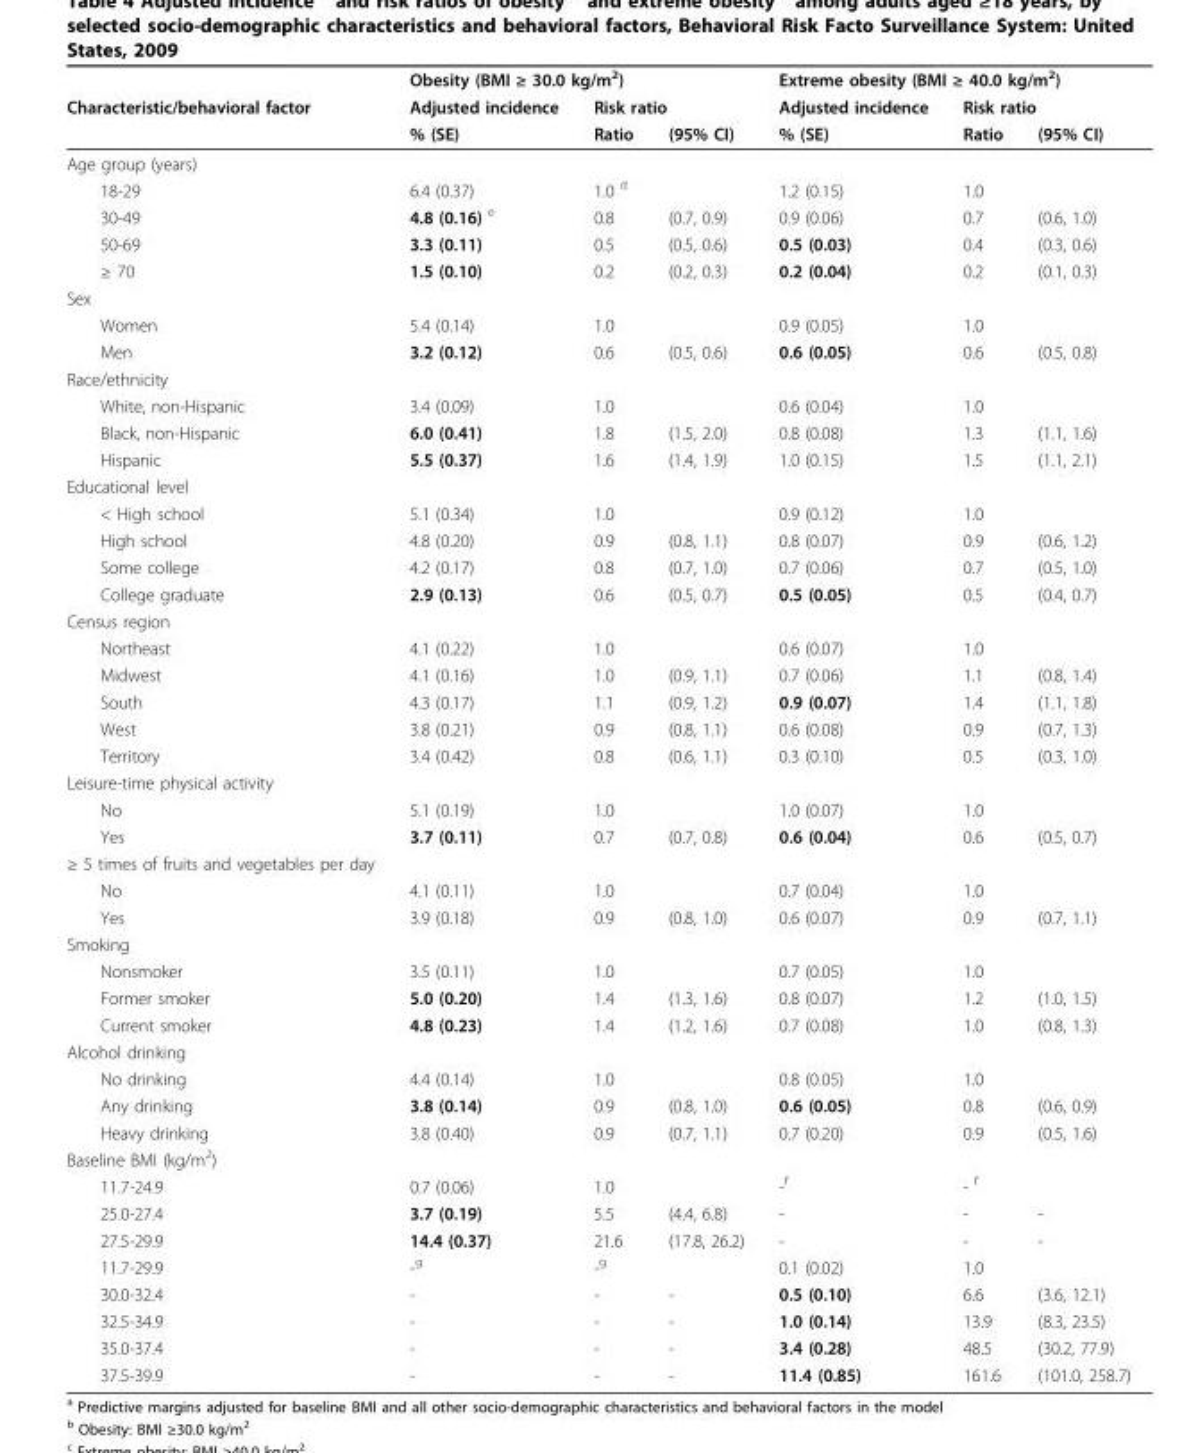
<table><thead><tr><td rowspan="3">Characteristic/behavioral factor</td><td colspan="3">Obesity (BMI ≥ 30.0 kg/m<sup>2</sup>)</td><td colspan="3">Extreme obesity (BMI ≥ 40.0 kg/m<sup>2</sup>)</td></tr><tr><td rowspan="2">Adjusted incidence % (SE)</td><td colspan="2">Risk ratio</td><td rowspan="2">Adjusted incidence % (SE)</td><td colspan="2">Risk ratio</td></tr><tr><td>Ratio</td><td>(95% CI)</td><td>Ratio</td><td>(95% CI)</td></tr></thead><tbody><tr><td colspan="7">Age group (years)</td></tr><tr><td>18-29</td><td>6.4 (0.37)</td><td>1.0 <sup>d</sup></td><td></td><td>1.2 (0.15)</td><td>1.0</td><td></td></tr><tr><td>30-49</td><td>4.8 (0.16) <sup>e</sup></td><td>0.8</td><td>(0.7, 0.9)</td><td>0.9 (0.06)</td><td>0.7</td><td>(0.6, 1.0)</td></tr><tr><td>50-69</td><td>3.3 (0.11)</td><td>0.5</td><td>(0.5, 0.6)</td><td>0.5 (0.03)</td><td>0.4</td><td>(0.3, 0.6)</td></tr><tr><td>≥ 70</td><td>1.5 (0.10)</td><td>0.2</td><td>(0.2, 0.3)</td><td>0.2 (0.04)</td><td>0.2</td><td>(0.1, 0.3)</td></tr><tr><td colspan="7">Sex</td></tr><tr><td>Women</td><td>5.4 (0.14)</td><td>1.0</td><td></td><td>0.9 (0.05)</td><td>1.0</td><td></td></tr><tr><td>Men</td><td>3.2 (0.12)</td><td>0.6</td><td>(0.5, 0.6)</td><td>0.6 (0.05)</td><td>0.6</td><td>(0.5, 0.8)</td></tr><tr><td colspan="7">Race/ethnicity</td></tr><tr><td>White, non-Hispanic</td><td>3.4 (0.09)</td><td>1.0</td><td></td><td>0.6 (0.04)</td><td>1.0</td><td></td></tr><tr><td>Black, non-Hispanic</td><td>6.0 (0.41)</td><td>1.8</td><td>(1.5, 2.0)</td><td>0.8 (0.08)</td><td>1.3</td><td>(1.1, 1.6)</td></tr><tr><td>Hispanic</td><td>5.5 (0.37)</td><td>1.6</td><td>(1.4, 1.9)</td><td>1.0 (0.15)</td><td>1.5</td><td>(1.1, 2.1)</td></tr><tr><td colspan="7">Educational level</td></tr><tr><td>&lt; High school</td><td>5.1 (0.34)</td><td>1.0</td><td></td><td>0.9 (0.12)</td><td>1.0</td><td></td></tr><tr><td>High school</td><td>4.8 (0.20)</td><td>0.9</td><td>(0.8, 1.1)</td><td>0.8 (0.07)</td><td>0.9</td><td>(0.6, 1.2)</td></tr><tr><td>Some college</td><td>4.2 (0.17)</td><td>0.8</td><td>(0.7, 1.0)</td><td>0.7 (0.06)</td><td>0.7</td><td>(0.5, 1.0)</td></tr><tr><td>College graduate</td><td>2.9 (0.13)</td><td>0.6</td><td>(0.5, 0.7)</td><td>0.5 (0.05)</td><td>0.5</td><td>(0.4, 0.7)</td></tr><tr><td colspan="7">Census region</td></tr><tr><td>Northeast</td><td>4.1 (0.22)</td><td>1.0</td><td></td><td>0.6 (0.07)</td><td>1.0</td><td></td></tr><tr><td>Midwest</td><td>4.1 (0.16)</td><td>1.0</td><td>(0.9, 1.1)</td><td>0.7 (0.06)</td><td>1.1</td><td>(0.8, 1.4)</td></tr><tr><td>South</td><td>4.3 (0.17)</td><td>1.1</td><td>(0.9, 1.2)</td><td>0.9 (0.07)</td><td>1.4</td><td>(1.1, 1.8)</td></tr><tr><td>West</td><td>3.8 (0.21)</td><td>0.9</td><td>(0.8, 1.1)</td><td>0.6 (0.08)</td><td>0.9</td><td>(0.7, 1.3)</td></tr><tr><td>Territory</td><td>3.4 (0.42)</td><td>0.8</td><td>(0.6, 1.1)</td><td>0.3 (0.10)</td><td>0.5</td><td>(0.3, 1.0)</td></tr><tr><td colspan="7">Leisure-time physical activity</td></tr><tr><td>No</td><td>5.1 (0.19)</td><td>1.0</td><td></td><td>1.0 (0.07)</td><td>1.0</td><td></td></tr><tr><td>Yes</td><td>3.7 (0.11)</td><td>0.7</td><td>(0.7, 0.8)</td><td>0.6 (0.04)</td><td>0.6</td><td>(0.5, 0.7)</td></tr><tr><td colspan="7">≥ 5 times of fruits and vegetables per day</td></tr><tr><td>No</td><td>4.1 (0.11)</td><td>1.0</td><td></td><td>0.7 (0.04)</td><td>1.0</td><td></td></tr><tr><td>Yes</td><td>3.9 (0.18)</td><td>0.9</td><td>(0.8, 1.0)</td><td>0.6 (0.07)</td><td>0.9</td><td>(0.7, 1.1)</td></tr><tr><td colspan="7">Smoking</td></tr><tr><td>Nonsmoker</td><td>3.5 (0.11)</td><td>1.0</td><td></td><td>0.7 (0.05)</td><td>1.0</td><td></td></tr><tr><td>Former smoker</td><td>5.0 (0.20)</td><td>1.4</td><td>(1.3, 1.6)</td><td>0.8 (0.07)</td><td>1.2</td><td>(1.0, 1.5)</td></tr><tr><td>Current smoker</td><td>4.8 (0.23)</td><td>1.4</td><td>(1.2, 1.6)</td><td>0.7 (0.08)</td><td>1.0</td><td>(0.8, 1.3)</td></tr><tr><td colspan="7">Alcohol drinking</td></tr><tr><td>No drinking</td><td>4.4 (0.14)</td><td>1.0</td><td></td><td>0.8 (0.05)</td><td>1.0</td><td></td></tr><tr><td>Any drinking</td><td>3.8 (0.14)</td><td>0.9</td><td>(0.8, 1.0)</td><td>0.6 (0.05)</td><td>0.8</td><td>(0.6, 0.9)</td></tr><tr><td>Heavy drinking</td><td>3.8 (0.40)</td><td>0.9</td><td>(0.7, 1.1)</td><td>0.7 (0.20)</td><td>0.9</td><td>(0.5, 1.6)</td></tr><tr><td colspan="7">Baseline BMI (kg/m<sup>2</sup>)</td></tr><tr><td>11.7-24.9</td><td>0.7 (0.06)</td><td>1.0</td><td></td><td>-<sup>f</sup></td><td>- <sup>f</sup></td><td></td></tr><tr><td>25.0-27.4</td><td>3.7 (0.19)</td><td>5.5</td><td>(4.4, 6.8)</td><td>-</td><td>-</td><td>-</td></tr><tr><td>27.5-29.9</td><td>14.4 (0.37)</td><td>21.6</td><td>(17.8, 26.2)</td><td>-</td><td>-</td><td>-</td></tr><tr><td>11.7-29.9</td><td>-<sup>g</sup></td><td>-<sup>g</sup></td><td></td><td>0.1 (0.02)</td><td>1.0</td><td></td></tr><tr><td>30.0-32.4</td><td>-</td><td>-</td><td>-</td><td>0.5 (0.10)</td><td>6.6</td><td>(3.6, 12.1)</td></tr><tr><td>32.5-34.9</td><td>-</td><td>-</td><td>-</td><td>1.0 (0.14)</td><td>13.9</td><td>(8.3, 23.5)</td></tr><tr><td>35.0-37.4</td><td>-</td><td>-</td><td>-</td><td>3.4 (0.28)</td><td>48.5</td><td>(30.2, 77.9)</td></tr><tr><td>37.5-39.9</td><td>-</td><td>-</td><td>-</td><td>11.4 (0.85)</td><td>161.6</td><td>(101.0, 258.7)</td></tr></tbody></table>